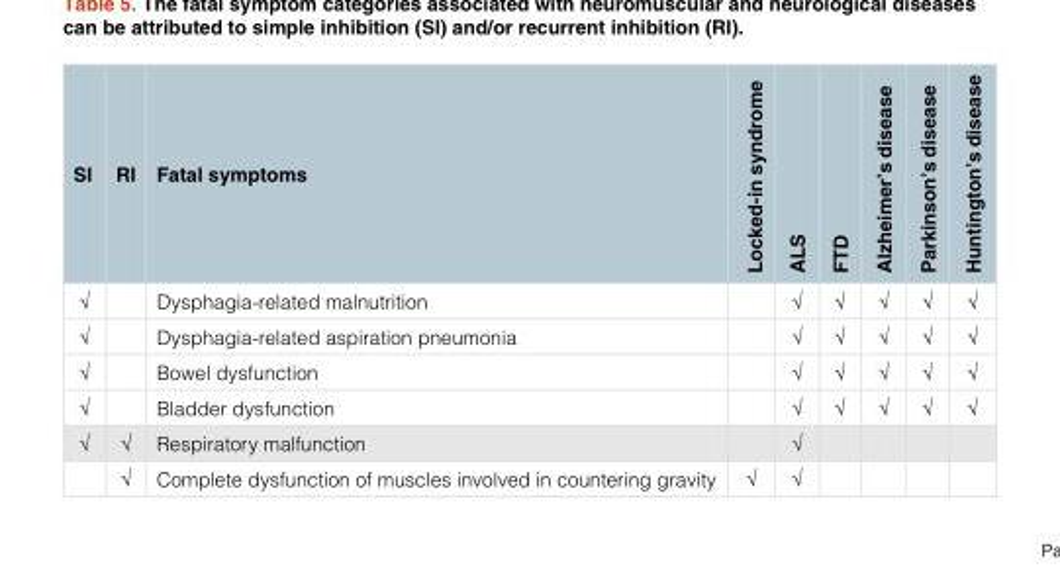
<table><thead><tr><td>SI</td><td>RI</td><td>Fatal symptoms</td><td>Locked-in syndrome</td><td>ALS</td><td>FTD</td><td>Alzheimer’s disease</td><td>Parkinson’s disease</td><td>Huntington’s disease</td></tr></thead><tbody><tr><td>√</td><td></td><td>Dysphagia-related malnutrition</td><td></td><td>√</td><td>√</td><td>√</td><td>√</td><td>√</td></tr><tr><td>√</td><td></td><td>Dysphagia-related aspiration pneumonia</td><td></td><td>√</td><td>√</td><td>√</td><td>√</td><td>√</td></tr><tr><td>√</td><td></td><td>Bowel dysfunction</td><td></td><td>√</td><td>√</td><td>√</td><td>√</td><td>√</td></tr><tr><td>√</td><td></td><td>Bladder dysfunction</td><td></td><td>√</td><td>√</td><td>√</td><td>√</td><td>√</td></tr><tr><td rowspan="2">√</td><td>√</td><td>Respiratory malfunction</td><td></td><td>√</td><td></td><td></td><td></td><td></td></tr><tr><td>√</td><td>Complete dysfunction of muscles involved in countering gravity</td><td>√</td><td>√</td><td></td><td></td><td></td><td></td></tr></tbody></table>